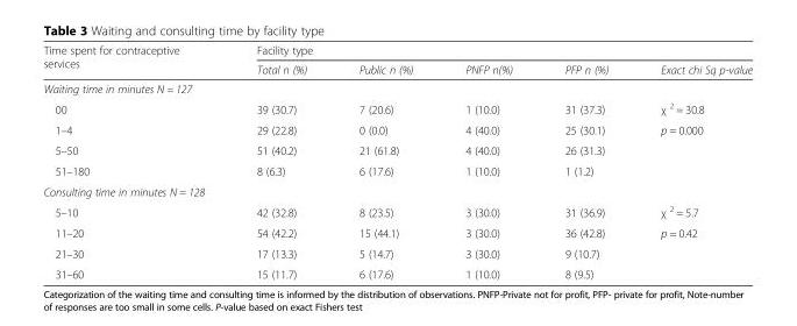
<table><thead><tr><td rowspan="2">Time spent for contraceptive services</td><td colspan="5">Facility type</td></tr><tr><td>Total n (%)</td><td>Public n (%)</td><td>PNFP n(%)</td><td>PFP n (%)</td><td>Exact chi Sq p-value</td></tr></thead><tbody><tr><td colspan="6">Waiting time in minutes N = 127</td></tr><tr><td>00</td><td>39 (30.7)</td><td>7 (20.6)</td><td>1 (10.0)</td><td>31 (37.3)</td><td>χ <sup>2</sup> = 30.8</td></tr><tr><td>1–4</td><td>29 (22.8)</td><td>0 (0.0)</td><td>4 (40.0)</td><td>25 (30.1)</td><td>p = 0.000</td></tr><tr><td>5–50</td><td>51 (40.2)</td><td>21 (61.8)</td><td>4 (40.0)</td><td>26 (31.3)</td><td></td></tr><tr><td>51–180</td><td>8 (6.3)</td><td>6 (17.6)</td><td>1 (10.0)</td><td>1 (1.2)</td><td></td></tr><tr><td colspan="6">Consulting time in minutes N = 128</td></tr><tr><td>5–10</td><td>42 (32.8)</td><td>8 (23.5)</td><td>3 (30.0)</td><td>31 (36.9)</td><td>χ <sup>2</sup> = 5.7</td></tr><tr><td>11–20</td><td>54 (42.2)</td><td>15 (44.1)</td><td>3 (30.0)</td><td>36 (42.8)</td><td>p = 0.42</td></tr><tr><td>21–30</td><td>17 (13.3)</td><td>5 (14.7)</td><td>3 (30.0)</td><td>9 (10.7)</td><td></td></tr><tr><td>31–60</td><td>15 (11.7)</td><td>6 (17.6)</td><td>1 (10.0)</td><td>8 (9.5)</td><td></td></tr></tbody></table>